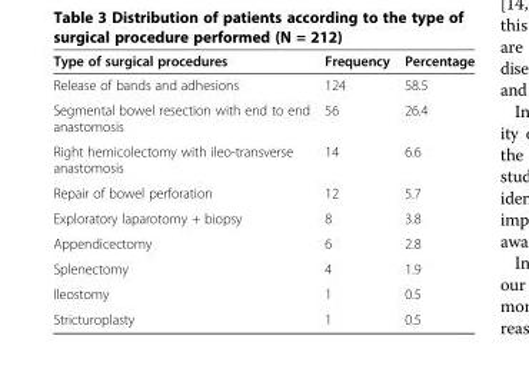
<table><thead><tr><td>Type of surgical procedures</td><td>Frequency</td><td>Percentage</td></tr></thead><tbody><tr><td>Release of bands and adhesions</td><td>124</td><td>58.5</td></tr><tr><td>Segmental bowel resection with end to end anastomosis</td><td>56</td><td>26.4</td></tr><tr><td>Right hemicolectomy with ileo-transverse anastomosis</td><td>14</td><td>6.6</td></tr><tr><td>Repair of bowel perforation</td><td>12</td><td>5.7</td></tr><tr><td>Exploratory laparotomy + biopsy</td><td>8</td><td>3.8</td></tr><tr><td>Appendicectomy</td><td>6</td><td>2.8</td></tr><tr><td>Splenectomy</td><td>4</td><td>1.9</td></tr><tr><td>Ileostomy</td><td>1</td><td>0.5</td></tr><tr><td>Stricturoplasty</td><td>1</td><td>0.5</td></tr></tbody></table>